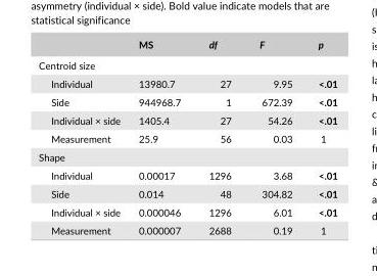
<table><thead><tr><td></td><td>MS</td><td>df</td><td>F</td><td>p</td></tr></thead><tbody><tr><td colspan="5">Centroid size</td></tr><tr><td>Individual</td><td>13980.7</td><td>27</td><td>9.95</td><td>&lt;.01</td></tr><tr><td>Side</td><td>944968.7</td><td>1</td><td>672.39</td><td>&lt;.01</td></tr><tr><td>Individual × side</td><td>1405.4</td><td>27</td><td>54.26</td><td>&lt;.01</td></tr><tr><td>Measurement</td><td>25.9</td><td>56</td><td>0.03</td><td>1</td></tr><tr><td colspan="5">Shape</td></tr><tr><td>Individual</td><td>0.00017</td><td>1296</td><td>3.68</td><td>&lt;.01</td></tr><tr><td>Side</td><td>0.014</td><td>48</td><td>304.82</td><td>&lt;.01</td></tr><tr><td>Individual × side</td><td>0.000046</td><td>1296</td><td>6.01</td><td>&lt;.01</td></tr><tr><td>Measurement</td><td>0.000007</td><td>2688</td><td>0.19</td><td>1</td></tr></tbody></table>